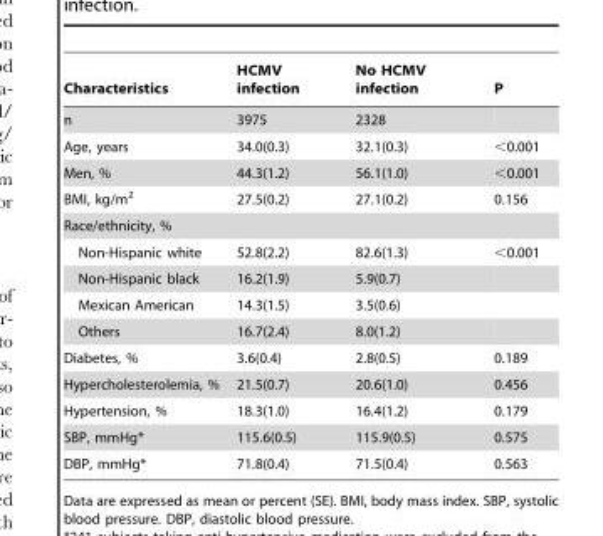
<table><thead><tr><td>Characteristics</td><td>HCMV infection</td><td>No HCMV infection</td><td>P</td></tr></thead><tbody><tr><td>n</td><td>3975</td><td>2328</td><td></td></tr><tr><td>Age, years</td><td>34.0(0.3)</td><td>32.1(0.3)</td><td>&lt;0.001</td></tr><tr><td>Men, %</td><td>44.3(1.2)</td><td>56.1(1.0)</td><td>&lt;0.001</td></tr><tr><td>BMI, kg/m<sup>2</sup></td><td>27.5(0.2)</td><td>27.1(0.2)</td><td>0.156</td></tr><tr><td colspan="4">Race/ethnicity, %</td></tr><tr><td>Non-Hispanic white</td><td>52.8(2.2)</td><td>82.6(1.3)</td><td>&lt;0.001</td></tr><tr><td>Non-Hispanic black</td><td>16.2(1.9)</td><td>5.9(0.7)</td><td></td></tr><tr><td>Mexican American</td><td>14.3(1.5)</td><td>3.5(0.6)</td><td></td></tr><tr><td>Others</td><td>16.7(2.4)</td><td>8.0(1.2)</td><td></td></tr><tr><td>Diabetes, %</td><td>3.6(0.4)</td><td>2.8(0.5)</td><td>0.189</td></tr><tr><td>Hypercholesterolemia, %</td><td>21.5(0.7)</td><td>20.6(1.0)</td><td>0.456</td></tr><tr><td>Hypertension, %</td><td>18.3(1.0)</td><td>16.4(1.2)</td><td>0.179</td></tr><tr><td>SBP, mmHg*</td><td>115.6(0.5)</td><td>115.9(0.5)</td><td>0.575</td></tr><tr><td>DBP, mmHg*</td><td>71.8(0.4)</td><td>71.5(0.4)</td><td>0.563</td></tr></tbody></table>